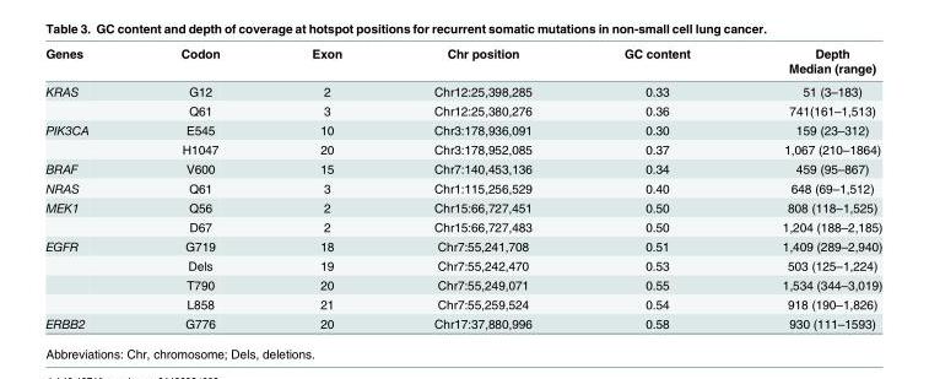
<table><thead><tr><td rowspan="2">Genes</td><td rowspan="2">Codon</td><td rowspan="2">Exon</td><td rowspan="2">Chr position</td><td rowspan="2">GC content</td><td rowspan="2">Depth Median (range)</td></tr><tr></tr></thead><tbody><tr><td rowspan="2">KRAS</td><td>G12</td><td>2</td><td>Chr12:25,398,285</td><td>0.33</td><td>51 (3–183)</td></tr><tr><td>Q61</td><td>3</td><td>Chr12:25,380,276</td><td>0.36</td><td>741(161–1,513)</td></tr><tr><td rowspan="2">PIK3CA</td><td>E545</td><td>10</td><td>Chr3:178,936,091</td><td>0.30</td><td>159 (23–312)</td></tr><tr><td>H1047</td><td>20</td><td>Chr3:178,952,085</td><td>0.37</td><td>1,067 (210–1864)</td></tr><tr><td>BRAF</td><td>V600</td><td>15</td><td>Chr7:140,453,136</td><td>0.34</td><td>459 (95–867)</td></tr><tr><td>NRAS</td><td>Q61</td><td>3</td><td>Chr1:115,256,529</td><td>0.40</td><td>648 (69–1,512)</td></tr><tr><td rowspan="2">MEK1</td><td>Q56</td><td>2</td><td>Chr15:66,727,451</td><td>0.50</td><td>808 (118–1,525)</td></tr><tr><td>D67</td><td>2</td><td>Chr15:66,727,483</td><td>0.50</td><td>1,204 (188–2,185)</td></tr><tr><td rowspan="4">EGFR</td><td>G719</td><td>18</td><td>Chr7:55,241,708</td><td>0.51</td><td>1,409 (289–2,940)</td></tr><tr><td>Dels</td><td>19</td><td>Chr7:55,242,470</td><td>0.53</td><td>503 (125–1,224)</td></tr><tr><td>T790</td><td>20</td><td>Chr7:55,249,071</td><td>0.55</td><td>1,534 (344–3,019)</td></tr><tr><td>L858</td><td>21</td><td>Chr7:55,259,524</td><td>0.54</td><td>918 (190–1,826)</td></tr><tr><td>ERBB2</td><td>G776</td><td>20</td><td>Chr17:37,880,996</td><td>0.58</td><td>930 (111–1593)</td></tr></tbody></table>